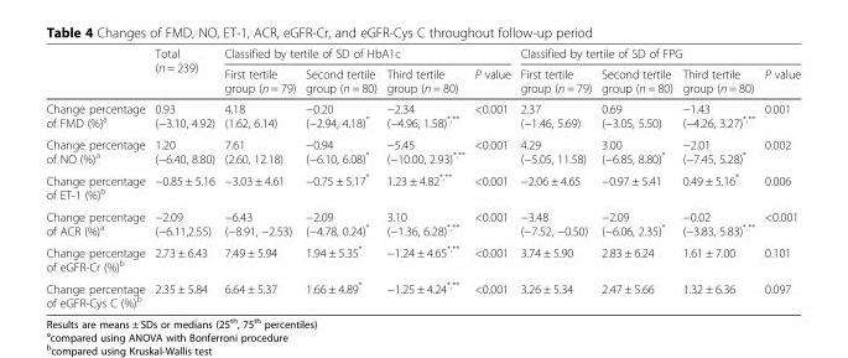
<table><thead><tr><td rowspan="2"></td><td rowspan="2">Total (n = 239)</td><td colspan="4">Classified by tertile of SD of HbA1c</td><td colspan="4">Classified by tertile of SD of FPG</td></tr><tr><td>First tertile group (n = 79)</td><td>Second tertile group (n = 80)</td><td>Third tertile group (n = 80)</td><td>P value</td><td>First tertile group (n = 79)</td><td>Second tertile group (n = 80)</td><td>Third tertile group (n = 80)</td><td>P value</td></tr></thead><tbody><tr><td>Change percentage of FMD (%)<sup>a</sup></td><td>0.93 (−3.10, 4.92)</td><td>4.18 (1.62, 6.14)</td><td>−0.20 (−2.94, 4.18)*</td><td>−2.34 (−4.96, 1.58)<sup>*,**</sup></td><td>&lt;0.001</td><td>2.37 (−1.46, 5.69)</td><td>0.69 (−3.05, 5.50)</td><td>−1.43 (−4.26, 3.27)<sup>*,**</sup></td><td>0.001</td></tr><tr><td>Change percentage of NO (%)<sup>a</sup></td><td>1.20 (−6.40, 8.80)</td><td>7.61 (2.60, 12.18)</td><td>−0.94 (−6.10, 6.08)*</td><td>−5.45 (−10.00, 2.93)<sup>*,**</sup></td><td>&lt;0.001</td><td>4.29 (−5.05, 11.58)</td><td>3.00 (−6.85, 8.80)*</td><td>−2.01 (−7.45, 5.28)*</td><td>0.002</td></tr><tr><td>Change percentage of ET-1 (%)<sup>b</sup></td><td>−0.85 ± 5.16</td><td>−3.03 ± 4.61</td><td>−0.75 ± 5.17*</td><td>1.23 ± 4.82<sup>*,**</sup></td><td>&lt;0.001</td><td>−2.06 ± 4.65</td><td>−0.97 ± 5.41</td><td>0.49 ± 5.16*</td><td>0.006</td></tr><tr><td>Change percentage of ACR (%)<sup>a</sup></td><td>−2.09 (−6.11,2.55)</td><td>−6.43 (−8.91, −2.53)</td><td>−2.09 (−4.78, 0.24)*</td><td>3.10 (−1.36, 6.28)<sup>*,**</sup></td><td>&lt;0.001</td><td>−3.48 (−7.52, −0.50)</td><td>−2.09 (−6.06, 2.35)*</td><td>−0.02 (−3.83, 5.83)<sup>*,**</sup></td><td>&lt;0.001</td></tr><tr><td>Change percentage of eGFR-Cr (%)<sup>b</sup></td><td>2.73 ± 6.43</td><td>7.49 ± 5.94</td><td>1.94 ± 5.35*</td><td>−1.24 ± 4.65<sup>*,**</sup></td><td>&lt;0.001</td><td>3.74 ± 5.90</td><td>2.83 ± 6.24</td><td>1.61 ± 7.00</td><td>0.101</td></tr><tr><td>Change percentage of eGFR-Cys C (%)<sup>b</sup></td><td>2.35 ± 5.84</td><td>6.64 ± 5.37</td><td>1.66 ± 4.89*</td><td>−1.25 ± 4.24<sup>*,**</sup></td><td>&lt;0.001</td><td>3.26 ± 5.34</td><td>2.47 ± 5.66</td><td>1.32 ± 6.36</td><td>0.097</td></tr></tbody></table>